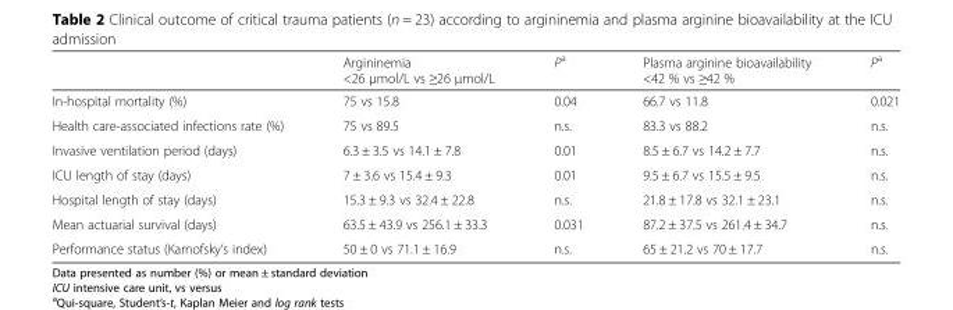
<table><thead><tr><td></td><td>Argininemia &lt;26 μmol/L vs ≥26 μmol/L</td><td>P<sup>a</sup></td><td>Plasma arginine bioavailability &lt;42 % vs ≥42 %</td><td>P<sup>a</sup></td></tr></thead><tbody><tr><td>In-hospital mortality (%)</td><td>75 vs 15.8</td><td>0.04</td><td>66.7 vs 11.8</td><td>0.021</td></tr><tr><td>Health care-associated infections rate (%)</td><td>75 vs 89.5</td><td>n.s.</td><td>83.3 vs 88.2</td><td>n.s.</td></tr><tr><td>Invasive ventilation period (days)</td><td>6.3 ± 3.5 vs 14.1 ± 7.8</td><td>0.01</td><td>8.5 ± 6.7 vs 14.2 ± 7.7</td><td>n.s.</td></tr><tr><td>ICU length of stay (days)</td><td>7 ± 3.6 vs 15.4 ± 9.3</td><td>0.01</td><td>9.5 ± 6.7 vs 15.5 ± 9.5</td><td>n.s.</td></tr><tr><td>Hospital length of stay (days)</td><td>15.3 ± 9.3 vs 32.4 ± 22.8</td><td>n.s.</td><td>21.8 ± 17.8 vs 32.1 ± 23.1</td><td>n.s.</td></tr><tr><td>Mean actuarial survival (days)</td><td>63.5 ± 43.9 vs 256.1 ± 33.3</td><td>0.031</td><td>87.2 ± 37.5 vs 261.4 ± 34.7</td><td>n.s.</td></tr><tr><td>Performance status (Karnofsky’s index)</td><td>50 ± 0 vs 71.1 ± 16.9</td><td>n.s.</td><td>65 ± 21.2 vs 70 ± 17.7</td><td>n.s.</td></tr></tbody></table>